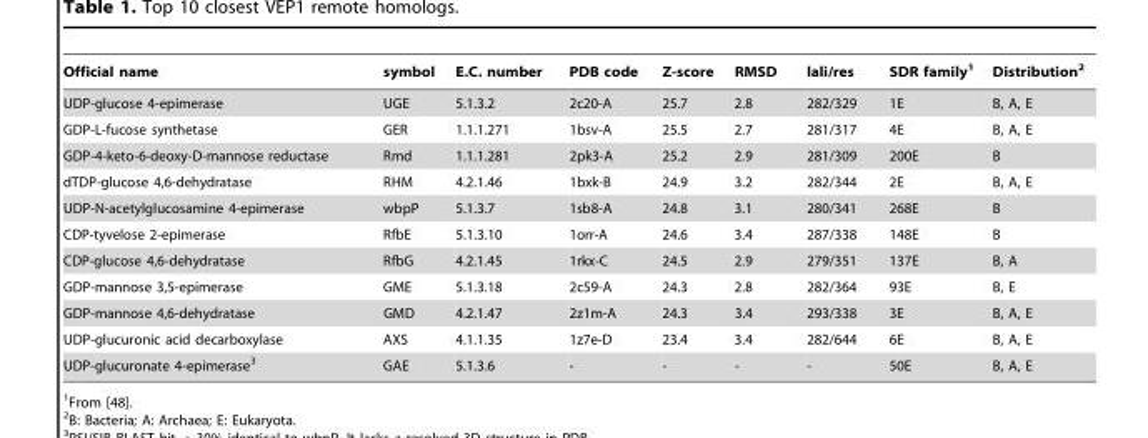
<table><thead><tr><td>Official name</td><td>symbol</td><td>E.C. number</td><td>PDB code</td><td>Z-score</td><td>RMSD</td><td>lali/res</td><td>SDR family<sup>1</sup></td><td>Distribution<sup>2</sup></td></tr></thead><tbody><tr><td>UDP-glucose 4-epimerase</td><td>UGE</td><td>5.1.3.2</td><td>2c20-A</td><td>25.7</td><td>2.8</td><td>282/329</td><td>1E</td><td>B, A, E</td></tr><tr><td>GDP-L-fucose synthetase</td><td>GER</td><td>1.1.1.271</td><td>1bsv-A</td><td>25.5</td><td>2.7</td><td>281/317</td><td>4E</td><td>B, A, E</td></tr><tr><td>GDP-4-keto-6-deoxy-D-mannose reductase</td><td>Rmd</td><td>1.1.1.281</td><td>2pk3-A</td><td>25.2</td><td>2.9</td><td>281/309</td><td>200E</td><td>B</td></tr><tr><td>dTDP-glucose 4,6-dehydratase</td><td>RHM</td><td>4.2.1.46</td><td>1bxk-B</td><td>24.9</td><td>3.2</td><td>282/344</td><td>2E</td><td>B, A, E</td></tr><tr><td>UDP-N-acetylglucosamine 4-epimerase</td><td>wbpP</td><td>5.1.3.7</td><td>1sb8-A</td><td>24.8</td><td>3.1</td><td>280/341</td><td>268E</td><td>B</td></tr><tr><td>CDP-tyvelose 2-epimerase</td><td>RfbE</td><td>5.1.3.10</td><td>1orr-A</td><td>24.6</td><td>3.4</td><td>287/338</td><td>148E</td><td>B</td></tr><tr><td>CDP-glucose 4,6-dehydratase</td><td>RfbG</td><td>4.2.1.45</td><td>1rkx-C</td><td>24.5</td><td>2.9</td><td>279/351</td><td>137E</td><td>B, A</td></tr><tr><td>GDP-mannose 3,5-epimerase</td><td>GME</td><td>5.1.3.18</td><td>2c59-A</td><td>24.3</td><td>2.8</td><td>282/364</td><td>93E</td><td>B, E</td></tr><tr><td>GDP-mannose 4,6-dehydratase</td><td>GMD</td><td>4.2.1.47</td><td>2z1m-A</td><td>24.3</td><td>3.4</td><td>293/338</td><td>3E</td><td>B, A, E</td></tr><tr><td>UDP-glucuronic acid decarboxylase</td><td>AXS</td><td>4.1.1.35</td><td>1z7e-D</td><td>23.4</td><td>3.4</td><td>282/644</td><td>6E</td><td>B, A, E</td></tr><tr><td>UDP-glucuronate 4-epimerase<sup>3</sup></td><td>GAE</td><td>5.1.3.6</td><td>-</td><td>-</td><td>-</td><td>-</td><td>50E</td><td>B, A, E</td></tr></tbody></table>